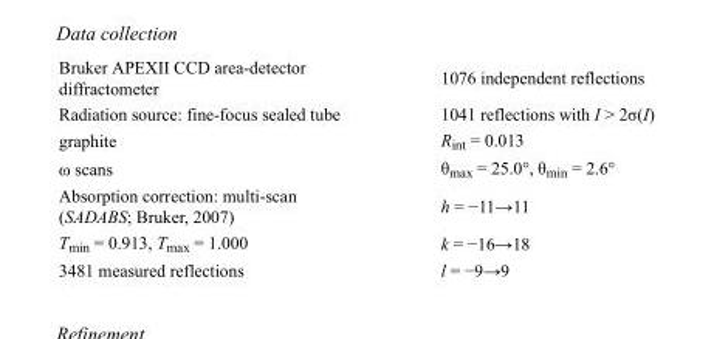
<table><tbody><tr><td>Bruker APEXII CCD area-detector diffractometer</td><td>1076 independent reflections</td></tr><tr><td>Radiation source: fine-focus sealed tube</td><td>1041 reflections with I &gt; 2σ(I)</td></tr><tr><td>graphite</td><td>R<sub>int</sub> = 0.013</td></tr><tr><td>ω scans</td><td>θ<sub>max</sub> = 25.0°, θ<sub>min</sub> = 2.6°</td></tr><tr><td>Absorption correction: multi-scan (SADABS; Bruker, 2007)</td><td>h = −11→11</td></tr><tr><td>T<sub>min</sub> = 0.913, T<sub>max</sub> = 1.000</td><td>k = −16→18</td></tr><tr><td>3481 measured reflections</td><td>l = −9→9</td></tr></tbody></table>